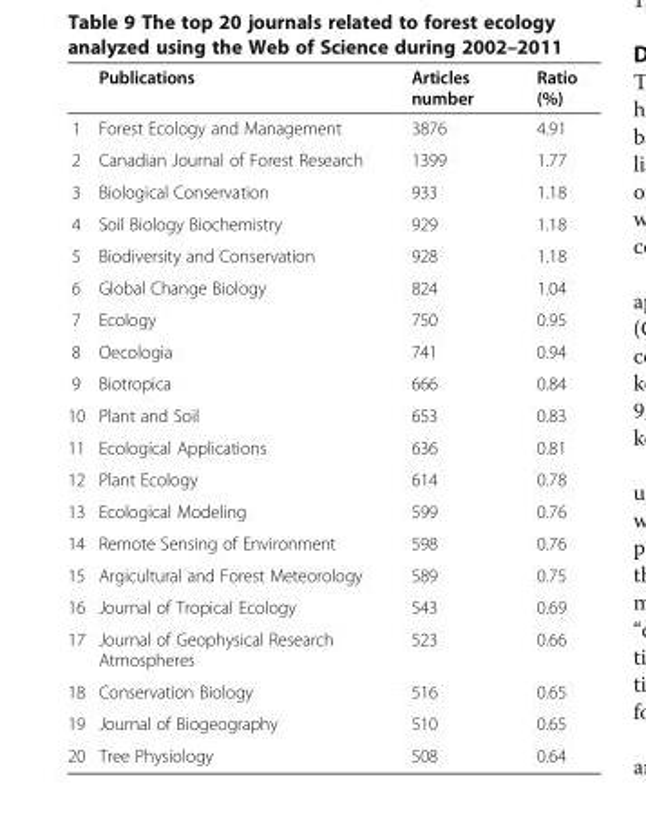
<table><thead><tr><td></td><td>Publications</td><td>Articles number</td><td>Ratio (%)</td></tr></thead><tbody><tr><td>1</td><td>Forest Ecology and Management</td><td>3876</td><td>4.91</td></tr><tr><td>2</td><td>Canadian Journal of Forest Research</td><td>1399</td><td>1.77</td></tr><tr><td>3</td><td>Biological Conservation</td><td>933</td><td>1.18</td></tr><tr><td>4</td><td>Soil Biology Biochemistry</td><td>929</td><td>1.18</td></tr><tr><td>5</td><td>Biodiversity and Conservation</td><td>928</td><td>1.18</td></tr><tr><td>6</td><td>Global Change Biology</td><td>824</td><td>1.04</td></tr><tr><td>7</td><td>Ecology</td><td>750</td><td>0.95</td></tr><tr><td>8</td><td>Oecologia</td><td>741</td><td>0.94</td></tr><tr><td>9</td><td>Biotropica</td><td>666</td><td>0.84</td></tr><tr><td>10</td><td>Plant and Soil</td><td>653</td><td>0.83</td></tr><tr><td>11</td><td>Ecological Applications</td><td>636</td><td>0.81</td></tr><tr><td>12</td><td>Plant Ecology</td><td>614</td><td>0.78</td></tr><tr><td>13</td><td>Ecological Modeling</td><td>599</td><td>0.76</td></tr><tr><td>14</td><td>Remote Sensing of Environment</td><td>598</td><td>0.76</td></tr><tr><td>15</td><td>Argicultural and Forest Meteorology</td><td>589</td><td>0.75</td></tr><tr><td>16</td><td>Journal of Tropical Ecology</td><td>543</td><td>0.69</td></tr><tr><td>17</td><td>Journal of Geophysical Research Atmospheres</td><td>523</td><td>0.66</td></tr><tr><td>18</td><td>Conservation Biology</td><td>516</td><td>0.65</td></tr><tr><td>19</td><td>Journal of Biogeography</td><td>510</td><td>0.65</td></tr><tr><td>20</td><td>Tree Physiology</td><td>508</td><td>0.64</td></tr></tbody></table>